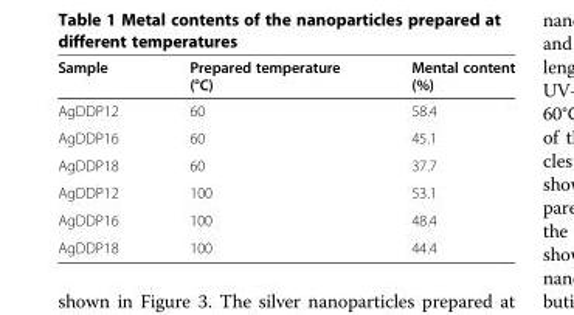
<table><thead><tr><td>Sample</td><td>Prepared temperature (°C)</td><td>Mental content (%)</td></tr></thead><tbody><tr><td>AgDDP12</td><td>60</td><td>58.4</td></tr><tr><td>AgDDP16</td><td>60</td><td>45.1</td></tr><tr><td>AgDDP18</td><td>60</td><td>37.7</td></tr><tr><td>AgDDP12</td><td>100</td><td>53.1</td></tr><tr><td>AgDDP16</td><td>100</td><td>48.4</td></tr><tr><td>AgDDP18</td><td>100</td><td>44.4</td></tr></tbody></table>